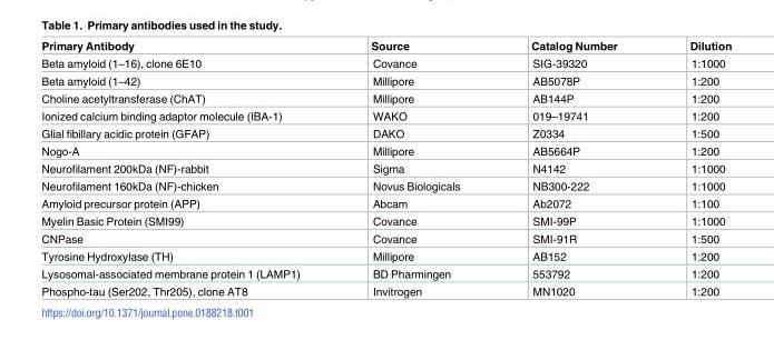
<table><thead><tr><td>Primary Antibody</td><td>Source</td><td>Catalog Number</td><td>Dilution</td></tr></thead><tbody><tr><td>Beta amyloid (1–16), clone 6E10</td><td>Covance</td><td>SIG-39320</td><td>1:1000</td></tr><tr><td>Beta amyloid (1–42)</td><td>Millipore</td><td>AB5078P</td><td>1:200</td></tr><tr><td>Choline acetyltransferase (ChAT)</td><td>Millipore</td><td>AB144P</td><td>1:200</td></tr><tr><td>Ionized calcium binding adaptor molecule (IBA-1)</td><td>WAKO</td><td>019–19741</td><td>1:200</td></tr><tr><td>Glial fibillary acidic protein (GFAP)</td><td>DAKO</td><td>Z0334</td><td>1:500</td></tr><tr><td>Nogo-A</td><td>Millipore</td><td>AB5664P</td><td>1:200</td></tr><tr><td>Neurofilament 200kDa (NF)-rabbit</td><td>Sigma</td><td>N4142</td><td>1:1000</td></tr><tr><td>Neurofilament 160kDa (NF)-chicken</td><td>Novus Biologicals</td><td>NB300-222</td><td>1:1000</td></tr><tr><td>Amyloid precursor protein (APP)</td><td>Abcam</td><td>Ab2072</td><td>1:100</td></tr><tr><td>Myelin Basic Protein (SMI99)</td><td>Covance</td><td>SMI-99P</td><td>1:1000</td></tr><tr><td>CNPase</td><td>Covance</td><td>SMI-91R</td><td>1:500</td></tr><tr><td>Tyrosine Hydroxylase (TH)</td><td>Millipore</td><td>AB152</td><td>1:200</td></tr><tr><td>Lysosomal-associated membrane protein 1 (LAMP1)</td><td>BD Pharmingen</td><td>553792</td><td>1:200</td></tr><tr><td>Phospho-tau (Ser202, Thr205), clone AT8</td><td>Invitrogen</td><td>MN1020</td><td>1:200</td></tr></tbody></table>